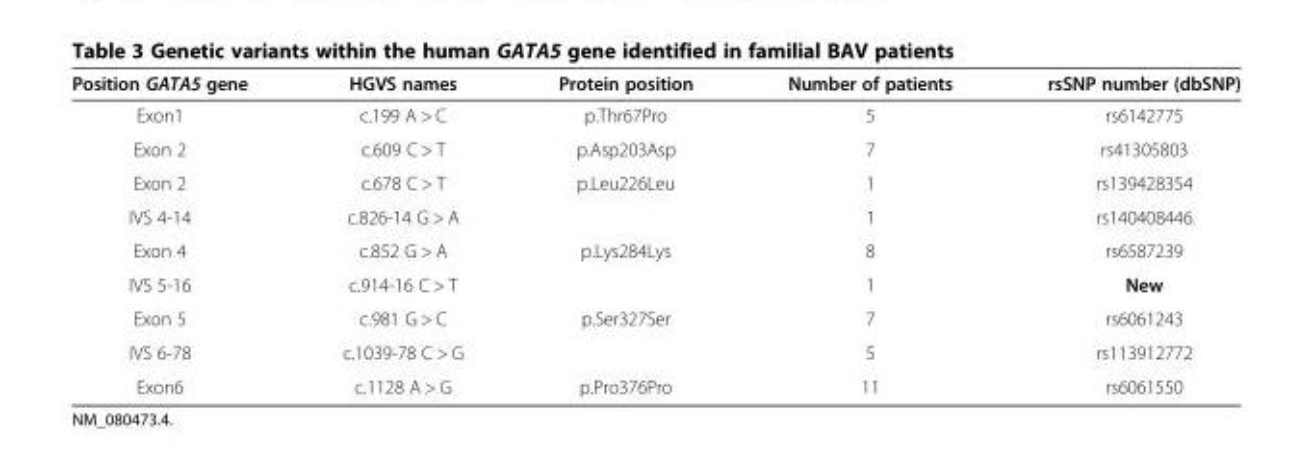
<table><thead><tr><td>Position GATA5 gene</td><td>HGVS names</td><td>Protein position</td><td>Number of patients</td><td>rsSNP number (dbSNP)</td></tr></thead><tbody><tr><td>Exon1</td><td>c.199 A &gt; C</td><td>p.Thr67Pro</td><td>5</td><td>rs6142775</td></tr><tr><td>Exon 2</td><td>c.609 C &gt; T</td><td>p.Asp203Asp</td><td>7</td><td>rs41305803</td></tr><tr><td>Exon 2</td><td>c.678 C &gt; T</td><td>p.Leu226Leu</td><td>1</td><td>rs139428354</td></tr><tr><td>IVS 4-14</td><td>c.826-14 G &gt; A</td><td></td><td>1</td><td>rs140408446</td></tr><tr><td>Exon 4</td><td>c.852 G &gt; A</td><td>p.Lys284Lys</td><td>8</td><td>rs6587239</td></tr><tr><td>IVS 5-16</td><td>c.914-16 C &gt; T</td><td></td><td>1</td><td>New</td></tr><tr><td>Exon 5</td><td>c.981 G &gt; C</td><td>p.Ser327Ser</td><td>7</td><td>rs6061243</td></tr><tr><td>IVS 6-78</td><td>c.1039-78 C &gt; G</td><td></td><td>5</td><td>rs113912772</td></tr><tr><td>Exon6</td><td>c.1128 A &gt; G</td><td>p.Pro376Pro</td><td>11</td><td>rs6061550</td></tr></tbody></table>